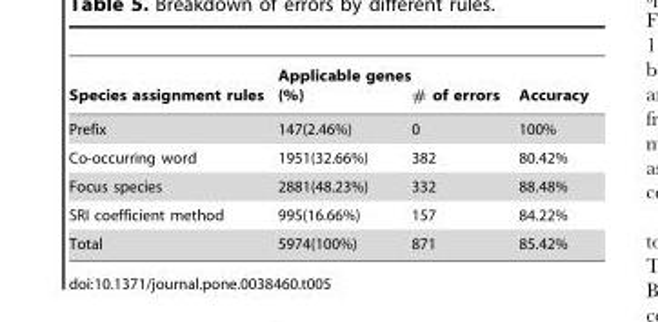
<table><thead><tr><td>Species assignment rules</td><td>Applicable genes (%)</td><td># of errors</td><td>Accuracy</td></tr></thead><tbody><tr><td>Prefix</td><td>147(2.46%)</td><td>0</td><td>100%</td></tr><tr><td>Co-occurring word</td><td>1951(32.66%)</td><td>382</td><td>80.42%</td></tr><tr><td>Focus species</td><td>2881(48.23%)</td><td>332</td><td>88.48%</td></tr><tr><td>SRI coefficient method</td><td>995(16.66%)</td><td>157</td><td>84.22%</td></tr><tr><td>Total</td><td>5974(100%)</td><td>871</td><td>85.42%</td></tr></tbody></table>